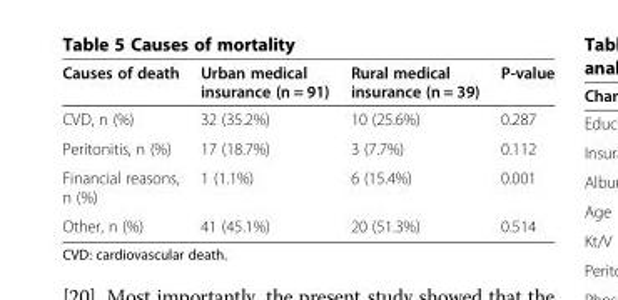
<table><thead><tr><td>Causes of death</td><td>Urban medical insurance (n = 91)</td><td>Rural medical insurance (n = 39)</td><td>P-value</td></tr></thead><tbody><tr><td>CVD, n (%)</td><td>32 (35.2%)</td><td>10 (25.6%)</td><td>0.287</td></tr><tr><td>Peritonitis, n (%)</td><td>17 (18.7%)</td><td>3 (7.7%)</td><td>0.112</td></tr><tr><td>Financial reasons, n (%)</td><td>1 (1.1%)</td><td>6 (15.4%)</td><td>0.001</td></tr><tr><td>Other, n (%)</td><td>41 (45.1%)</td><td>20 (51.3%)</td><td>0.514</td></tr></tbody></table>